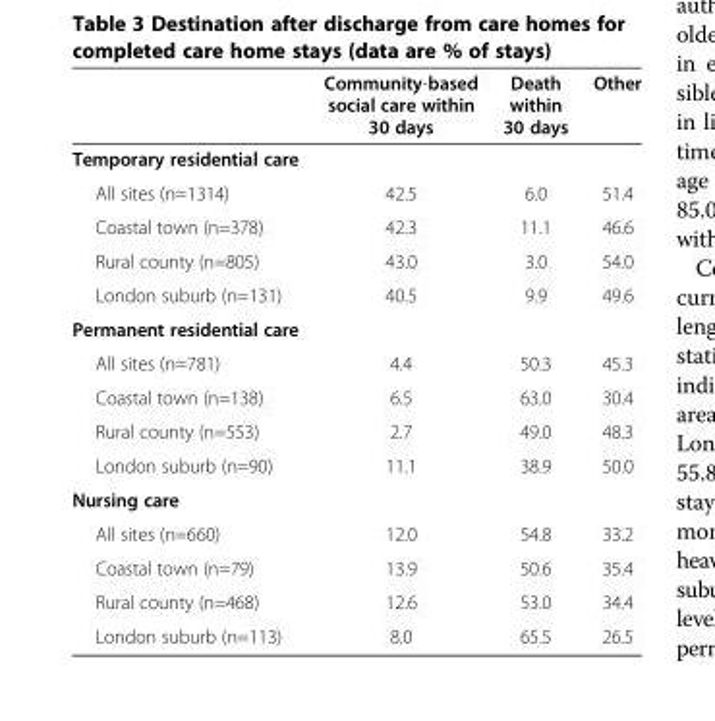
<table><thead><tr><td></td><td>Community-based social care within 30 days</td><td>Death within 30 days</td><td>Other</td></tr></thead><tbody><tr><td colspan="4">Temporary residential care</td></tr><tr><td>All sites (n=1314)</td><td>42.5</td><td>6.0</td><td>51.4</td></tr><tr><td>Coastal town (n=378)</td><td>42.3</td><td>11.1</td><td>46.6</td></tr><tr><td>Rural county (n=805)</td><td>43.0</td><td>3.0</td><td>54.0</td></tr><tr><td>London suburb (n=131)</td><td>40.5</td><td>9.9</td><td>49.6</td></tr><tr><td colspan="4">Permanent residential care</td></tr><tr><td>All sites (n=781)</td><td>4.4</td><td>50.3</td><td>45.3</td></tr><tr><td>Coastal town (n=138)</td><td>6.5</td><td>63.0</td><td>30.4</td></tr><tr><td>Rural county (n=553)</td><td>2.7</td><td>49.0</td><td>48.3</td></tr><tr><td>London suburb (n=90)</td><td>11.1</td><td>38.9</td><td>50.0</td></tr><tr><td colspan="4">Nursing care</td></tr><tr><td>All sites (n=660)</td><td>12.0</td><td>54.8</td><td>33.2</td></tr><tr><td>Coastal town (n=79)</td><td>13.9</td><td>50.6</td><td>35.4</td></tr><tr><td>Rural county (n=468)</td><td>12.6</td><td>53.0</td><td>34.4</td></tr><tr><td>London suburb (n=113)</td><td>8.0</td><td>65.5</td><td>26.5</td></tr></tbody></table>